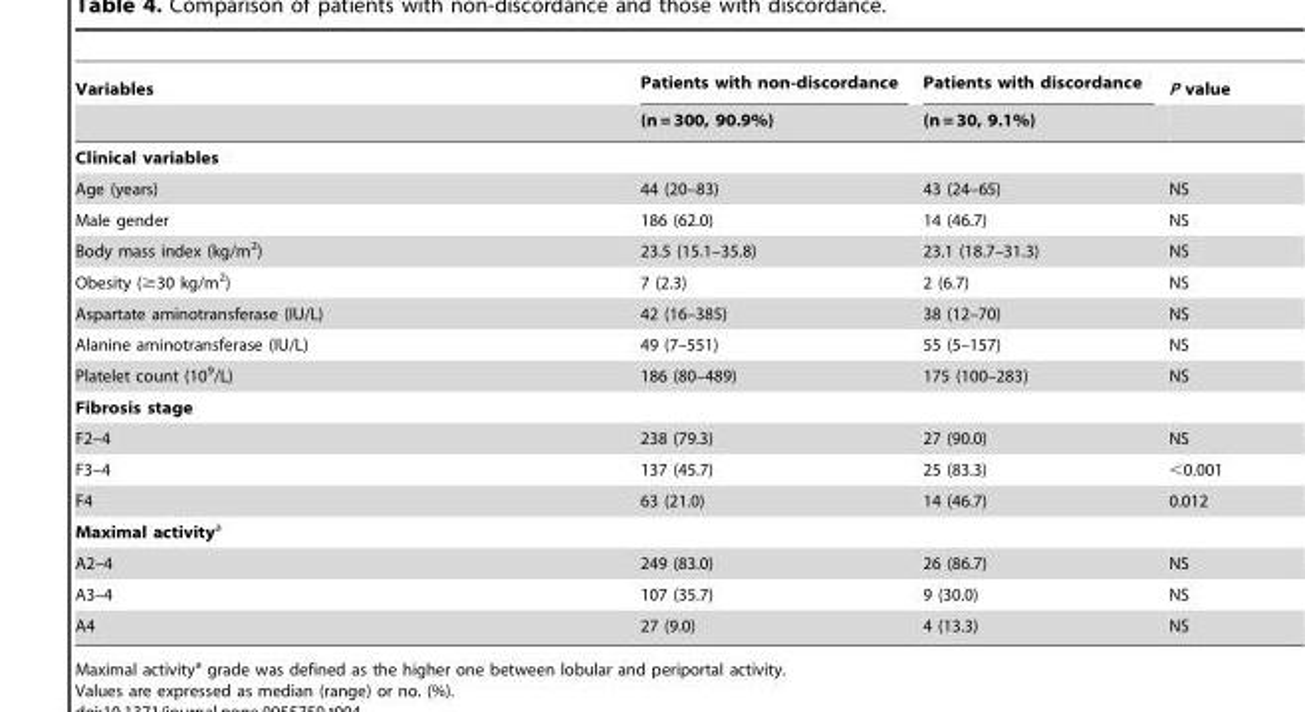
<table><thead><tr><td rowspan="2">Variables</td><td rowspan="2">Patients with non-discordance (n = 300, 90.9%)</td><td rowspan="2">Patients with discordance (n = 30, 9.1%)</td><td rowspan="2">P value</td></tr><tr></tr></thead><tbody><tr><td colspan="4">Clinical variables</td></tr><tr><td>Age (years)</td><td>44 (20–83)</td><td>43 (24–65)</td><td>NS</td></tr><tr><td>Male gender</td><td>186 (62.0)</td><td>14 (46.7)</td><td>NS</td></tr><tr><td>Body mass index (kg/m<sup>2</sup>)</td><td>23.5 (15.1–35.8)</td><td>23.1 (18.7–31.3)</td><td>NS</td></tr><tr><td>Obesity (≥30 kg/m<sup>2</sup>)</td><td>7 (2.3)</td><td>2 (6.7)</td><td>NS</td></tr><tr><td>Aspartate aminotransferase (IU/L)</td><td>42 (16–385)</td><td>38 (12–70)</td><td>NS</td></tr><tr><td>Alanine aminotransferase (IU/L)</td><td>49 (7–551)</td><td>55 (5–157)</td><td>NS</td></tr><tr><td>Platelet count (10<sup>9</sup>/L)</td><td>186 (80–489)</td><td>175 (100–283)</td><td>NS</td></tr><tr><td colspan="4">Fibrosis stage</td></tr><tr><td>F2–4</td><td>238 (79.3)</td><td>27 (90.0)</td><td>NS</td></tr><tr><td>F3–4</td><td>137 (45.7)</td><td>25 (83.3)</td><td>&lt;0.001</td></tr><tr><td>F4</td><td>63 (21.0)</td><td>14 (46.7)</td><td>0.012</td></tr><tr><td colspan="4">Maximal activity<sup>a</sup></td></tr><tr><td>A2–4</td><td>249 (83.0)</td><td>26 (86.7)</td><td>NS</td></tr><tr><td>A3–4</td><td>107 (35.7)</td><td>9 (30.0)</td><td>NS</td></tr><tr><td>A4</td><td>27 (9.0)</td><td>4 (13.3)</td><td>NS</td></tr></tbody></table>